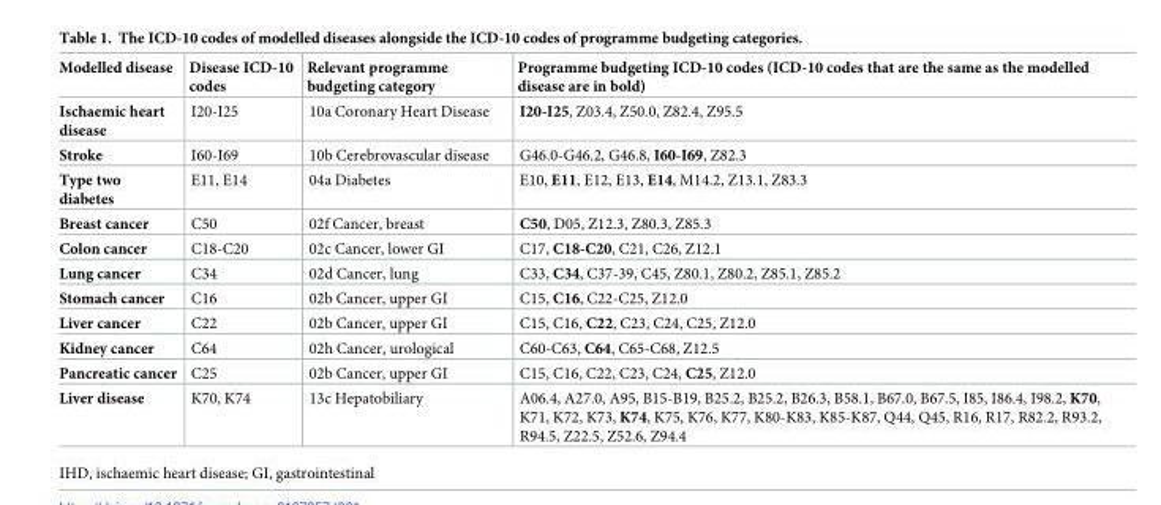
<table><thead><tr><td>Modelled disease</td><td>Disease ICD-10 codes</td><td>Relevant programme budgeting category</td><td>Programme budgeting ICD-10 codes (ICD-10 codes that are the same as the modelled disease are in bold)</td></tr></thead><tbody><tr><td>Ischaemic heart disease</td><td>I20-I25</td><td>10a Coronary Heart Disease</td><td>I20-I25, Z03.4, Z50.0, Z82.4, Z95.5</td></tr><tr><td>Stroke</td><td>I60-I69</td><td>10b Cerebrovascular disease</td><td>G46.0-G46.2, G46.8, I60-I69, Z82.3</td></tr><tr><td>Type two diabetes</td><td>E11, E14</td><td>04a Diabetes</td><td>E10, E11, E12, E13, E14, M14.2, Z13.1, Z83.3</td></tr><tr><td>Breast cancer</td><td>C50</td><td>02f Cancer, breast</td><td>C50, D05, Z12.3, Z80.3, Z85.3</td></tr><tr><td>Colon cancer</td><td>C18-C20</td><td>02c Cancer, lower GI</td><td>C17, C18-C20, C21, C26, Z12.1</td></tr><tr><td>Lung cancer</td><td>C34</td><td>02d Cancer, lung</td><td>C33, C34, C37-39, C45, Z80.1, Z80.2, Z85.1, Z85.2</td></tr><tr><td>Stomach cancer</td><td>C16</td><td>02b Cancer, upper GI</td><td>C15, C16, C22-C25, Z12.0</td></tr><tr><td>Liver cancer</td><td>C22</td><td>02b Cancer, upper GI</td><td>C15, C16, C22, C23, C24, C25, Z12.0</td></tr><tr><td>Kidney cancer</td><td>C64</td><td>02h Cancer, urological</td><td>C60-C63, C64, C65-C68, Z12.5</td></tr><tr><td>Pancreatic cancer</td><td>C25</td><td>02b Cancer, upper GI</td><td>C15, C16, C22, C23, C24, C25, Z12.0</td></tr><tr><td>Liver disease</td><td>K70, K74</td><td>13c Hepatobiliary</td><td>A06.4, A27.0, A95, B15-B19, B25.2, B25.2, B26.3, B58.1, B67.0, B67.5, I85, I86.4, I98.2, K70, K71, K72, K73, K74, K75, K76, K77, K80-K83, K85-K87, Q44, Q45, R16, R17, R82.2, R93.2, R94.5, Z22.5, Z52.6, Z94.4</td></tr></tbody></table>